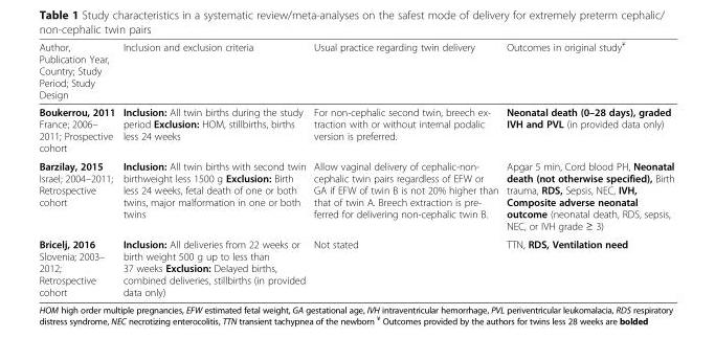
<table><thead><tr><td>Author, Publication Year, Country; Study Period; Study Design</td><td>Inclusion and exclusion criteria</td><td>Usual practice regarding twin delivery</td><td>Outcomes in original study<sup>¥</sup></td></tr></thead><tbody><tr><td>Boukerrou, 2011 France; 2006– 2011; Prospective cohort</td><td>Inclusion: All twin births during the study period Exclusion: HOM, stillbirths, births less 24 weeks</td><td>For non-cephalic second twin, breech ex- traction with or without internal podalic version is preferred.</td><td>Neonatal death (0–28 days), graded IVH and PVL (in provided data only)</td></tr><tr><td>Barzilay, 2015 Israel; 2004–2011; Retrospective cohort</td><td>Inclusion: All twin births with second twin birthweight less 1500 g Exclusion: Birth less 24 weeks, fetal death of one or both twins, major malformation in one or both twins</td><td>Allow vaginal delivery of cephalic-non- cephalic twin pairs regardless of EFW or GA if EFW of twin B is not 20% higher than that of twin A. Breech extraction is pre- ferred for delivering non-cephalic twin B.</td><td>Apgar 5 min, Cord blood PH, Neonatal death (not otherwise specified), Birth trauma, RDS, Sepsis, NEC, IVH, Composite adverse neonatal outcome (neonatal death, RDS, sepsis, NEC, or IVH grade ≥ 3)</td></tr><tr><td>Bricelj, 2016 Slovenia; 2003– 2012; Retrospective cohort</td><td>Inclusion: All deliveries from 22 weeks or birth weight 500 g up to less than 37 weeks Exclusion: Delayed births, combined deliveries, stillbirths (in provided data only)</td><td>Not stated</td><td>TTN, RDS, Ventilation need</td></tr></tbody></table>